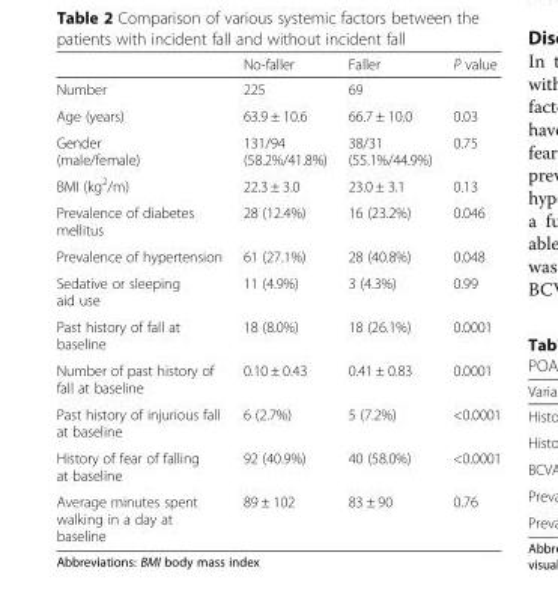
<table><thead><tr><td></td><td>No-faller</td><td>Faller</td><td>P value</td></tr></thead><tbody><tr><td>Number</td><td>225</td><td>69</td><td></td></tr><tr><td>Age (years)</td><td>63.9 ± 10.6</td><td>66.7 ± 10.0</td><td>0.03</td></tr><tr><td>Gender (male/female)</td><td>131/94 (58.2%/41.8%)</td><td>38/31 (55.1%/44.9%)</td><td>0.75</td></tr><tr><td>BMI (kg<sup>2</sup>/m)</td><td>22.3 ± 3.0</td><td>23.0 ± 3.1</td><td>0.13</td></tr><tr><td>Prevalence of diabetes mellitus</td><td>28 (12.4%)</td><td>16 (23.2%)</td><td>0.046</td></tr><tr><td>Prevalence of hypertension</td><td>61 (27.1%)</td><td>28 (40.8%)</td><td>0.048</td></tr><tr><td>Sedative or sleeping aid use</td><td>11 (4.9%)</td><td>3 (4.3%)</td><td>0.99</td></tr><tr><td>Past history of fall at baseline</td><td>18 (8.0%)</td><td>18 (26.1%)</td><td>0.0001</td></tr><tr><td>Number of past history of fall at baseline</td><td>0.10 ± 0.43</td><td>0.41 ± 0.83</td><td>0.0001</td></tr><tr><td>Past history of injurious fall at baseline</td><td>6 (2.7%)</td><td>5 (7.2%)</td><td>&lt;0.0001</td></tr><tr><td>History of fear of falling at baseline</td><td>92 (40.9%)</td><td>40 (58.0%)</td><td>&lt;0.0001</td></tr><tr><td>Average minutes spent walking in a day at baseline</td><td>89 ± 102</td><td>83 ± 90</td><td>0.76</td></tr></tbody></table>